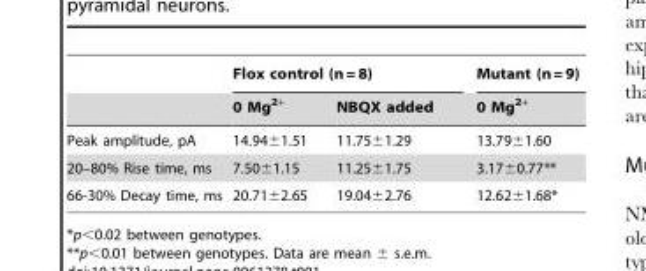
<table><thead><tr><td rowspan="2"></td><td colspan="2">Flox control (n = 8)</td><td rowspan="2">Mutant (n = 9) 0 Mg<sup>2+</sup></td></tr><tr><td>0 Mg<sup>2+</sup></td><td>NBQX added</td></tr></thead><tbody><tr><td>Peak amplitude, pA</td><td>14.94±1.51</td><td>11.75±1.29</td><td>13.79±1.60</td></tr><tr><td>20–80% Rise time, ms</td><td>7.50±1.15</td><td>11.25±1.75</td><td>3.17±0.77**</td></tr><tr><td>66-30% Decay time, ms</td><td>20.71±2.65</td><td>19.04±2.76</td><td>12.62±1.68*</td></tr></tbody></table>